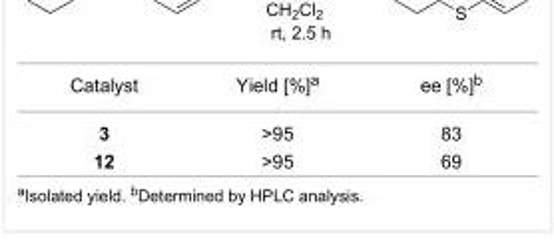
<table><tbody><tr><td>Catalyst</td><td>Yield [%]<sup>a</sup></td><td>ee [%]<sup>b</sup></td></tr><tr><td>3</td><td>&gt;95</td><td>83</td></tr><tr><td>12</td><td>&gt;95</td><td>69</td></tr></tbody></table>